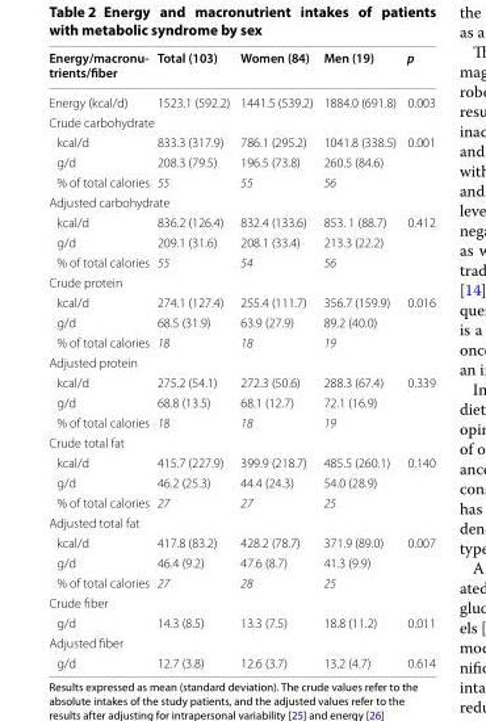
<table><thead><tr><td>Energy/macronu- trients/fiber</td><td>Total (103)</td><td>Women (84)</td><td>Men (19)</td><td>p</td></tr></thead><tbody><tr><td>Energy (kcal/d)</td><td>1523.1 (592.2)</td><td>1441.5 (539.2)</td><td>1884.0 (691.8)</td><td>0.003</td></tr><tr><td colspan="5">Crude carbohydrate</td></tr><tr><td>kcal/d</td><td>833.3 (317.9)</td><td>786.1 (295.2)</td><td>1041.8 (338.5)</td><td rowspan="2">0.001</td></tr><tr><td>g/d</td><td>208.3 (79.5)</td><td>196.5 (73.8)</td><td>260.5 (84.6)</td></tr><tr><td>% of total calories</td><td>55</td><td>55</td><td>56</td><td></td></tr><tr><td colspan="5">Adjusted carbohydrate</td></tr><tr><td>kcal/d</td><td>836.2 (126.4)</td><td>832.4 (133.6)</td><td>853. 1 (88.7)</td><td rowspan="2">0.412</td></tr><tr><td>g/d</td><td>209.1 (31.6)</td><td>208.1 (33.4)</td><td>213.3 (22.2)</td></tr><tr><td>% of total calories</td><td>55</td><td>54</td><td>56</td><td></td></tr><tr><td colspan="5">Crude protein</td></tr><tr><td>kcal/d</td><td>274.1 (127.4)</td><td>255.4 (111.7)</td><td>356.7 (159.9)</td><td rowspan="2">0.016</td></tr><tr><td>g/d</td><td>68.5 (31.9)</td><td>63.9 (27.9)</td><td>89.2 (40.0)</td></tr><tr><td>% of total calories</td><td>18</td><td>18</td><td>19</td><td></td></tr><tr><td colspan="5">Adjusted protein</td></tr><tr><td>kcal/d</td><td>275.2 (54.1)</td><td>272.3 (50.6)</td><td>288.3 (67.4)</td><td rowspan="2">0.339</td></tr><tr><td>g/d</td><td>68.8 (13.5)</td><td>68.1 (12.7)</td><td>72.1 (16.9)</td></tr><tr><td>% of total calories</td><td>18</td><td>18</td><td>19</td><td></td></tr><tr><td colspan="5">Crude total fat</td></tr><tr><td>kcal/d</td><td>415.7 (227.9)</td><td>399.9 (218.7)</td><td>485.5 (260.1)</td><td rowspan="2">0.140</td></tr><tr><td>g/d</td><td>46.2 (25.3)</td><td>44.4 (24.3)</td><td>54.0 (28.9)</td></tr><tr><td>% of total calories</td><td>27</td><td>27</td><td>25</td><td></td></tr><tr><td colspan="5">Adjusted total fat</td></tr><tr><td>kcal/d</td><td>417.8 (83.2)</td><td>428.2 (78.7)</td><td>371.9 (89.0)</td><td rowspan="2">0.007</td></tr><tr><td>g/d</td><td>46.4 (9.2)</td><td>47.6 (8.7)</td><td>41.3 (9.9)</td></tr><tr><td>% of total calories</td><td>27</td><td>28</td><td>25</td><td></td></tr><tr><td colspan="5">Crude fiber</td></tr><tr><td>g/d</td><td>14.3 (8.5)</td><td>13.3 (7.5)</td><td>18.8 (11.2)</td><td>0.011</td></tr><tr><td colspan="5">Adjusted fiber</td></tr><tr><td>g/d</td><td>12.7 (3.8)</td><td>12.6 (3.7)</td><td>13.2 (4.7)</td><td>0.614</td></tr></tbody></table>